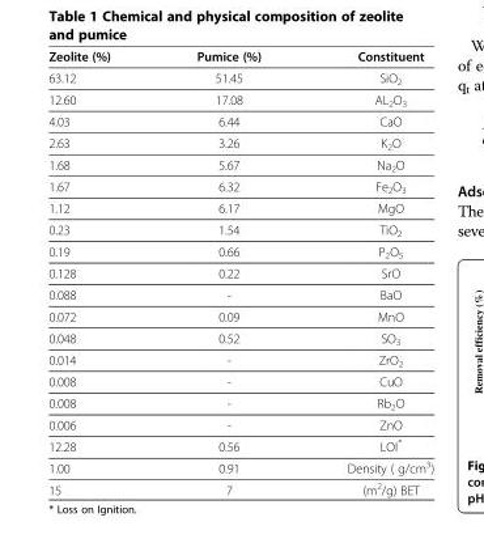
<table><thead><tr><td>Zeolite (%)</td><td>Pumice (%)</td><td>Constituent</td></tr></thead><tbody><tr><td>63.12</td><td>51.45</td><td>SiO<sub>2</sub></td></tr><tr><td>12.60</td><td>17.08</td><td>AL<sub>2</sub>O<sub>3</sub></td></tr><tr><td>4.03</td><td>6.44</td><td>CaO</td></tr><tr><td>2.63</td><td>3.26</td><td>K<sub>2</sub>O</td></tr><tr><td>1.68</td><td>5.67</td><td>Na<sub>2</sub>O</td></tr><tr><td>1.67</td><td>6.32</td><td>Fe<sub>2</sub>O<sub>3</sub></td></tr><tr><td>1.12</td><td>6.17</td><td>MgO</td></tr><tr><td>0.23</td><td>1.54</td><td>TiO<sub>2</sub></td></tr><tr><td>0.19</td><td>0.66</td><td>P<sub>2</sub>O<sub>5</sub></td></tr><tr><td>0.128</td><td>0.22</td><td>SrO</td></tr><tr><td>0.088</td><td>-</td><td>BaO</td></tr><tr><td>0.072</td><td>0.09</td><td>MnO</td></tr><tr><td>0.048</td><td>0.52</td><td>SO<sub>3</sub></td></tr><tr><td>0.014</td><td>-</td><td>ZrO<sub>2</sub></td></tr><tr><td>0.008</td><td>-</td><td>CuO</td></tr><tr><td>0.008</td><td>-</td><td>Rb<sub>2</sub>O</td></tr><tr><td>0.006</td><td>-</td><td>ZnO</td></tr><tr><td>12.28</td><td>0.56</td><td>LOI*</td></tr><tr><td>1.00</td><td>0.91</td><td>Density ( g/cm<sup>3</sup>)</td></tr><tr><td>15</td><td>7</td><td>(m<sup>2</sup>/g) BET</td></tr></tbody></table>